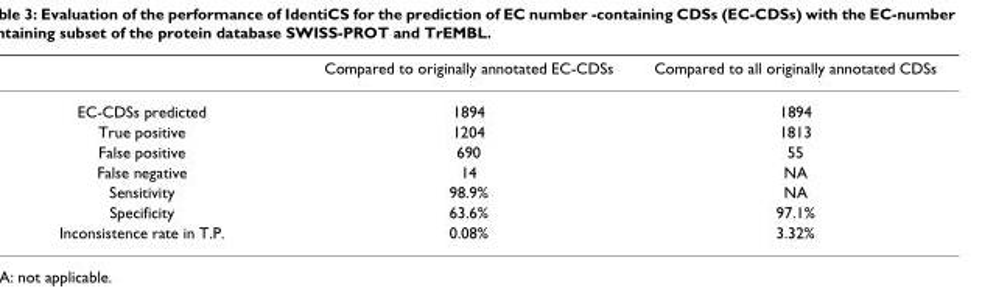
<table><thead><tr><td></td><td>Compared to originally annotated EC-CDSs</td><td>Compared to all originally annotated CDSs</td></tr></thead><tbody><tr><td>EC-CDSs predicted</td><td>1894</td><td>1894</td></tr><tr><td>True positive</td><td>1204</td><td>1813</td></tr><tr><td>False positive</td><td>690</td><td>55</td></tr><tr><td>False negative</td><td>14</td><td>NA</td></tr><tr><td>Sensitivity</td><td>98.9%</td><td>NA</td></tr><tr><td>Specificity</td><td>63.6%</td><td>97.1%</td></tr><tr><td>Inconsistence rate in T.P.</td><td>0.08%</td><td>3.32%</td></tr></tbody></table>